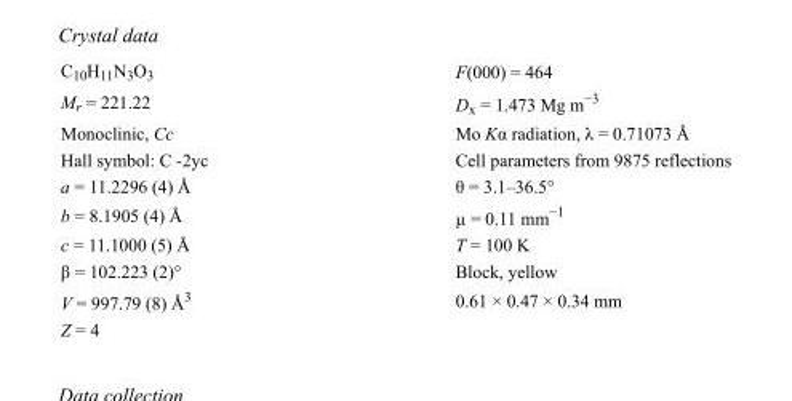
<table><tbody><tr><td>C<sub>10</sub>H<sub>11</sub>N<sub>3</sub>O<sub>3</sub></td><td>F(000) = 464</td></tr><tr><td>M<sub>r</sub> = 221.22</td><td>D<sub>x</sub> = 1.473 Mg m<sup>−3</sup></td></tr><tr><td>Monoclinic, Cc</td><td>Mo Kα radiation, λ = 0.71073 Å</td></tr><tr><td>Hall symbol: C -2yc</td><td>Cell parameters from 9875 reflections</td></tr><tr><td>a = 11.2296 (4) Å</td><td>θ = 3.1–36.5°</td></tr><tr><td>b = 8.1905 (4) Å</td><td>µ = 0.11 mm<sup>−1</sup></td></tr><tr><td>c = 11.1000 (5) Å</td><td>T = 100 K</td></tr><tr><td>β = 102.223 (2)°</td><td>Block, yellow</td></tr><tr><td>V = 997.79 (8) Å<sup>3</sup></td><td>0.61 × 0.47 × 0.34 mm</td></tr><tr><td>Z = 4</td><td></td></tr></tbody></table>